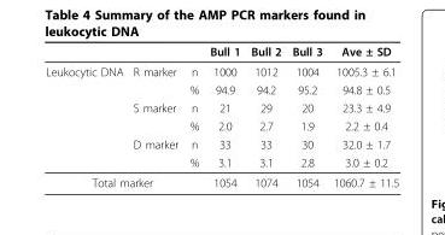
<table><thead><tr><td></td><td></td><td></td><td>Bull 1</td><td>Bull 2</td><td>Bull 3</td><td>Ave ± SD</td></tr></thead><tbody><tr><td rowspan="6">Leukocytic DNA</td><td>R marker</td><td>n</td><td>1000</td><td>1012</td><td>1004</td><td>1005.3 ± 6.1</td></tr><tr><td></td><td>%</td><td>94.9</td><td>94.2</td><td>95.2</td><td>94.8 ± 0.5</td></tr><tr><td>S marker</td><td>n</td><td>21</td><td>29</td><td>20</td><td>23.3 ± 4.9</td></tr><tr><td></td><td>%</td><td>2.0</td><td>2.7</td><td>1.9</td><td>2.2 ± 0.4</td></tr><tr><td>D marker</td><td>n</td><td>33</td><td>33</td><td>30</td><td>32.0 ± 1.7</td></tr><tr><td></td><td>%</td><td>3.1</td><td>3.1</td><td>2.8</td><td>3.0 ± 0.2</td></tr><tr><td colspan="3">Total marker</td><td>1054</td><td>1074</td><td>1054</td><td>1060.7 ± 11.5</td></tr></tbody></table>